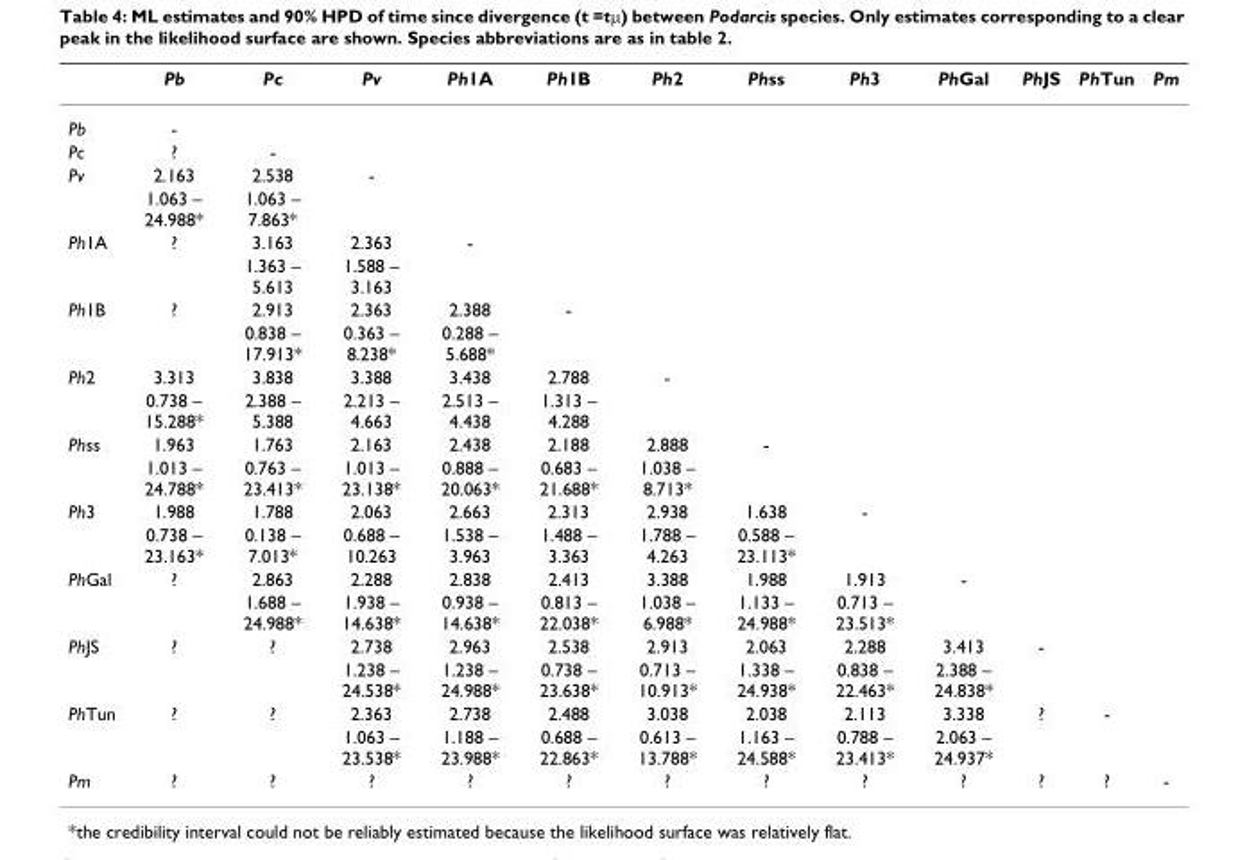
<table><thead><tr><td></td><td>Pb</td><td>Pc</td><td>Pv</td><td>Ph1A</td><td>Ph1B</td><td>Ph2</td><td>Phss</td><td>Ph3</td><td>PhGal</td><td>PhJS</td><td>PhTun</td><td>Pm</td></tr></thead><tbody><tr><td>Pb</td><td>-</td><td></td><td></td><td></td><td></td><td></td><td></td><td></td><td></td><td></td><td></td><td></td></tr><tr><td>Pc</td><td>?</td><td>-</td><td></td><td></td><td></td><td></td><td></td><td></td><td></td><td></td><td></td><td></td></tr><tr><td rowspan="2">Pv</td><td>2.163</td><td>2.538</td><td>-</td><td></td><td></td><td></td><td></td><td></td><td></td><td></td><td></td><td></td></tr><tr><td>1.063 – 24.988*</td><td>1.063 – 7.863*</td><td></td><td></td><td></td><td></td><td></td><td></td><td></td><td></td><td></td><td></td></tr><tr><td rowspan="2">Ph1A</td><td>?</td><td>3.163</td><td>2.363</td><td>-</td><td></td><td></td><td></td><td></td><td></td><td></td><td></td><td></td></tr><tr><td></td><td>1.363 – 5.613</td><td>1.588 – 3.163</td><td></td><td></td><td></td><td></td><td></td><td></td><td></td><td></td><td></td></tr><tr><td rowspan="2">Ph1B</td><td>?</td><td>2.913</td><td>2.363</td><td>2.388</td><td>-</td><td></td><td></td><td></td><td></td><td></td><td></td><td></td></tr><tr><td></td><td>0.838 – 17.913*</td><td>0.363 – 8.238*</td><td>0.288 – 5.688*</td><td></td><td></td><td></td><td></td><td></td><td></td><td></td><td></td></tr><tr><td rowspan="2">Ph2</td><td>3.313</td><td>3.838</td><td>3.388</td><td>3.438</td><td>2.788</td><td>-</td><td></td><td></td><td></td><td></td><td></td><td></td></tr><tr><td>0.738 – 15.288*</td><td>2.388 – 5.388</td><td>2.213 – 4.663</td><td>2.513 – 4.438</td><td>1.313 – 4.288</td><td></td><td></td><td></td><td></td><td></td><td></td><td></td></tr><tr><td rowspan="2">Phss</td><td>1.963</td><td>1.763</td><td>2.163</td><td>2.438</td><td>2.188</td><td>2.888</td><td>-</td><td></td><td></td><td></td><td></td><td></td></tr><tr><td>1.013 – 24.788*</td><td>0.763 – 23.413*</td><td>1.013 – 23.138*</td><td>0.888 – 20.063*</td><td>0.683 – 21.688*</td><td>1.038 – 8.713*</td><td></td><td></td><td></td><td></td><td></td><td></td></tr><tr><td rowspan="2">Ph3</td><td>1.988</td><td>1.788</td><td>2.063</td><td>2.663</td><td>2.313</td><td>2.938</td><td>1.638</td><td>-</td><td></td><td></td><td></td><td></td></tr><tr><td>0.738 – 23.163*</td><td>0.138 – 7.013*</td><td>0.688 – 10.263</td><td>1.538 – 3.963</td><td>1.488 – 3.363</td><td>1.788 – 4.263</td><td>0.588 – 23.113*</td><td></td><td></td><td></td><td></td><td></td></tr><tr><td rowspan="2">PhGal</td><td>?</td><td>2.863</td><td>2.288</td><td>2.838</td><td>2.413</td><td>3.388</td><td>1.988</td><td>1.913</td><td>-</td><td></td><td></td><td></td></tr><tr><td></td><td>1.688 – 24.988*</td><td>1.938 – 14.638*</td><td>0.938 – 14.638*</td><td>0.813 – 22.038*</td><td>1.038 – 6.988*</td><td>1.133 – 24.988*</td><td>0.713 – 23.513*</td><td></td><td></td><td></td><td></td></tr><tr><td rowspan="2">PhJS</td><td>?</td><td>?</td><td>2.738</td><td>2.963</td><td>2.538</td><td>2.913</td><td>2.063</td><td>2.288</td><td>3.413</td><td>-</td><td></td><td></td></tr><tr><td></td><td></td><td>1.238 – 24.538*</td><td>1.238 – 24.988*</td><td>0.738 – 23.638*</td><td>0.713 – 10.913*</td><td>1.338 – 24.938*</td><td>0.838 – 22.463*</td><td>2.388 – 24.838*</td><td></td><td></td><td></td></tr><tr><td rowspan="2">PhTun</td><td>?</td><td>?</td><td>2.363</td><td>2.738</td><td>2.488</td><td>3.038</td><td>2.038</td><td>2.113</td><td>3.338</td><td>?</td><td>-</td><td></td></tr><tr><td></td><td></td><td>1.063 – 23.538*</td><td>1.188 – 23.988*</td><td>0.688 – 22.863*</td><td>0.613 – 13.788*</td><td>1.163 – 24.588*</td><td>0.788 – 23.413*</td><td>2.063 – 24.937*</td><td></td><td></td><td></td></tr><tr><td>Pm</td><td>?</td><td>?</td><td>?</td><td>?</td><td>?</td><td>?</td><td>?</td><td>?</td><td>?</td><td>?</td><td>?</td><td>-</td></tr></tbody></table>